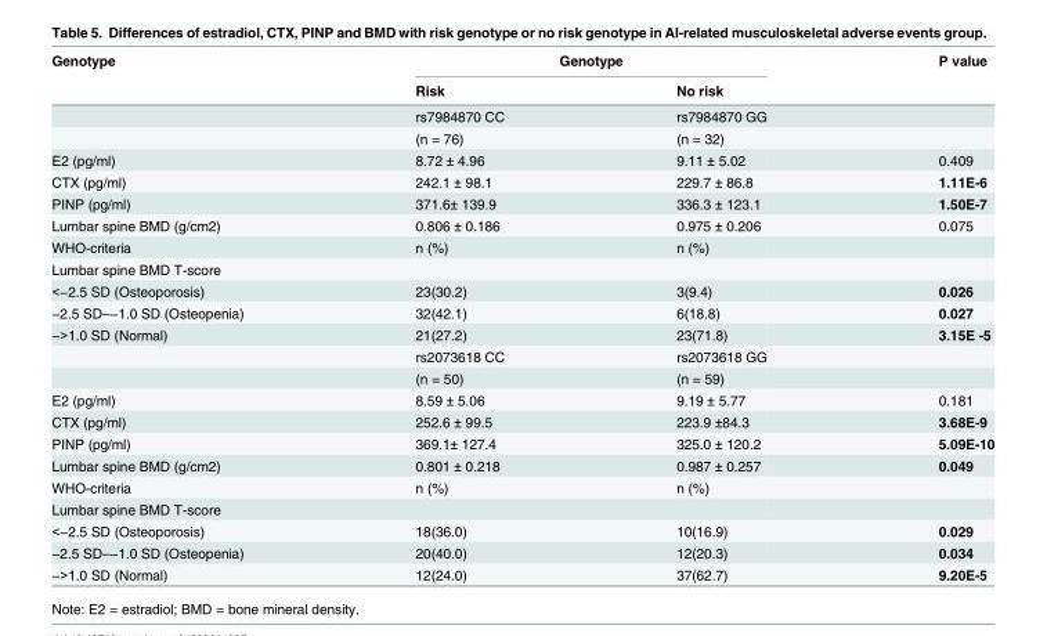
<table><thead><tr><td rowspan="2">Genotype</td><td colspan="2">Genotype</td><td rowspan="2">P value</td></tr><tr><td>Risk</td><td>No risk</td></tr></thead><tbody><tr><td></td><td>rs7984870 CC</td><td>rs7984870 GG</td><td></td></tr><tr><td></td><td>(n = 76)</td><td>(n = 32)</td><td></td></tr><tr><td>E2 (pg/ml)</td><td>8.72 ± 4.96</td><td>9.11 ± 5.02</td><td>0.409</td></tr><tr><td>CTX (pg/ml)</td><td>242.1 ± 98.1</td><td>229.7 ± 86.8</td><td>1.11E-6</td></tr><tr><td>PINP (pg/ml)</td><td>371.6± 139.9</td><td>336.3 ± 123.1</td><td>1.50E-7</td></tr><tr><td>Lumbar spine BMD (g/cm2)</td><td>0.806 ± 0.186</td><td>0.975 ± 0.206</td><td>0.075</td></tr><tr><td>WHO-criteria</td><td>n (%)</td><td>n (%)</td><td></td></tr><tr><td colspan="4">Lumbar spine BMD T-score</td></tr><tr><td>&lt;−2.5 SD (Osteoporosis)</td><td>23(30.2)</td><td>3(9.4)</td><td>0.026</td></tr><tr><td>−2.5 SD–−1.0 SD (Osteopenia)</td><td>32(42.1)</td><td>6(18.8)</td><td>0.027</td></tr><tr><td rowspan="3">−&gt;1.0 SD (Normal)</td><td>21(27.2)</td><td>23(71.8)</td><td>3.15E -5</td></tr><tr><td>rs2073618 CC</td><td>rs2073618 GG</td><td></td></tr><tr><td>(n = 50)</td><td>(n = 59)</td><td></td></tr><tr><td>E2 (pg/ml)</td><td>8.59 ± 5.06</td><td>9.19 ± 5.77</td><td>0.181</td></tr><tr><td>CTX (pg/ml)</td><td>252.6 ± 99.5</td><td>223.9 ±84.3</td><td>3.68E-9</td></tr><tr><td>PINP (pg/ml)</td><td>369.1± 127.4</td><td>325.0 ± 120.2</td><td>5.09E-10</td></tr><tr><td>Lumbar spine BMD (g/cm2)</td><td>0.801 ± 0.218</td><td>0.987 ± 0.257</td><td>0.049</td></tr><tr><td>WHO-criteria</td><td>n (%)</td><td>n (%)</td><td></td></tr><tr><td colspan="4">Lumbar spine BMD T-score</td></tr><tr><td>&lt;−2.5 SD (Osteoporosis)</td><td>18(36.0)</td><td>10(16.9)</td><td>0.029</td></tr><tr><td>−2.5 SD–−1.0 SD (Osteopenia)</td><td>20(40.0)</td><td>12(20.3)</td><td>0.034</td></tr><tr><td>−&gt;1.0 SD (Normal)</td><td>12(24.0)</td><td>37(62.7)</td><td>9.20E-5</td></tr></tbody></table>